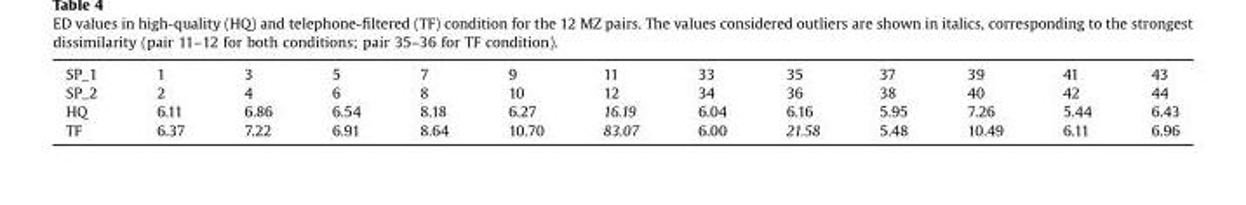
<table><tbody><tr><td>SP_1</td><td>1</td><td>3</td><td>5</td><td>7</td><td>9</td><td>11</td><td>33</td><td>35</td><td>37</td><td>39</td><td>41</td><td>43</td></tr><tr><td>SP_2</td><td>2</td><td>4</td><td>6</td><td>8</td><td>10</td><td>12</td><td>34</td><td>36</td><td>38</td><td>40</td><td>42</td><td>44</td></tr><tr><td>HQ</td><td>6.11</td><td>6.86</td><td>6.54</td><td>8.18</td><td>6.27</td><td>16.19</td><td>6.04</td><td>6.16</td><td>5.95</td><td>7.26</td><td>5.44</td><td>6.43</td></tr><tr><td>TF</td><td>6.37</td><td>7.22</td><td>6.91</td><td>8.64</td><td>10.70</td><td>83.07</td><td>6.00</td><td>21.58</td><td>5.48</td><td>10.49</td><td>6.11</td><td>6.96</td></tr></tbody></table>